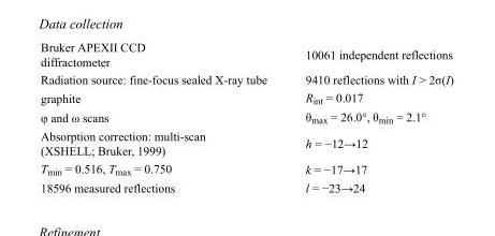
<table><tbody><tr><td>Bruker APEXII CCD diffractometer</td><td>10061 independent reflections</td></tr><tr><td>Radiation source: fine-focus sealed X-ray tube</td><td>9410 reflections with I &gt; 2σ(I)</td></tr><tr><td>graphite</td><td>R<sub>int</sub> = 0.017</td></tr><tr><td>φ and ω scans</td><td>θ<sub>max</sub> = 26.0°, θ<sub>min</sub> = 2.1°</td></tr><tr><td>Absorption correction: multi-scan (XSHELL; Bruker, 1999)</td><td>h = −12→12</td></tr><tr><td>T<sub>min</sub> = 0.516, T<sub>max</sub> = 0.750</td><td>k = −17→17</td></tr><tr><td>18596 measured reflections</td><td>l = −23→24</td></tr></tbody></table>